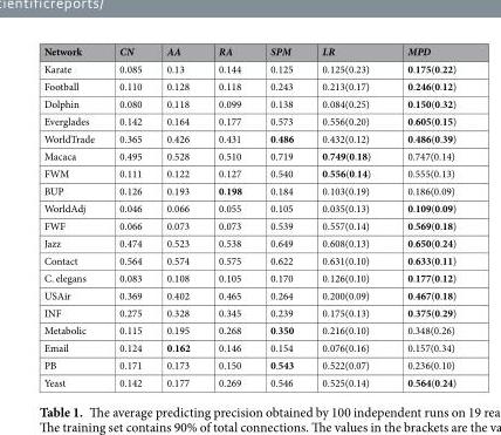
<table><thead><tr><td>Network</td><td>CN</td><td>AA</td><td>RA</td><td>SPM</td><td>LR</td><td>MPD</td></tr></thead><tbody><tr><td>Karate</td><td>0.085</td><td>0.13</td><td>0.144</td><td>0.125</td><td>0.125(0.23)</td><td>0.175(0.22)</td></tr><tr><td>Football</td><td>0.110</td><td>0.128</td><td>0.118</td><td>0.243</td><td>0.213(0.17)</td><td>0.246(0.12)</td></tr><tr><td>Dolphin</td><td>0.080</td><td>0.118</td><td>0.099</td><td>0.138</td><td>0.084(0.25)</td><td>0.150(0.32)</td></tr><tr><td>Everglades</td><td>0.142</td><td>0.164</td><td>0.177</td><td>0.573</td><td>0.556(0.20)</td><td>0.605(0.15)</td></tr><tr><td>WorldTrade</td><td>0.365</td><td>0.426</td><td>0.431</td><td>0.486</td><td>0.432(0.12)</td><td>0.486(0.39)</td></tr><tr><td>Macaca</td><td>0.495</td><td>0.528</td><td>0.510</td><td>0.719</td><td>0.749(0.18)</td><td>0.747(0.14)</td></tr><tr><td>FWM</td><td>0.111</td><td>0.122</td><td>0.127</td><td>0.540</td><td>0.556(0.14)</td><td>0.555(0.13)</td></tr><tr><td>BUP</td><td>0.126</td><td>0.193</td><td>0.198</td><td>0.184</td><td>0.103(0.19)</td><td>0.186(0.09)</td></tr><tr><td>WorldAdj</td><td>0.046</td><td>0.066</td><td>0.055</td><td>0.105</td><td>0.035(0.13)</td><td>0.109(0.09)</td></tr><tr><td>FWF</td><td>0.066</td><td>0.073</td><td>0.073</td><td>0.539</td><td>0.557(0.14)</td><td>0.569(0.18)</td></tr><tr><td>Jazz</td><td>0.474</td><td>0.523</td><td>0.538</td><td>0.649</td><td>0.608(0.13)</td><td>0.650(0.24)</td></tr><tr><td>Contact</td><td>0.564</td><td>0.574</td><td>0.575</td><td>0.622</td><td>0.631(0.10)</td><td>0.633(0.11)</td></tr><tr><td>C. elegans</td><td>0.083</td><td>0.108</td><td>0.105</td><td>0.170</td><td>0.126(0.10)</td><td>0.177(0.12)</td></tr><tr><td>USAir</td><td>0.369</td><td>0.402</td><td>0.465</td><td>0.264</td><td>0.200(0.09)</td><td>0.467(0.18)</td></tr><tr><td>INF</td><td>0.275</td><td>0.328</td><td>0.345</td><td>0.239</td><td>0.175(0.13)</td><td>0.375(0.29)</td></tr><tr><td>Metabolic</td><td>0.115</td><td>0.195</td><td>0.268</td><td>0.350</td><td>0.216(0.10)</td><td>0.348(0.26)</td></tr><tr><td>Email</td><td>0.124</td><td>0.162</td><td>0.146</td><td>0.154</td><td>0.076(0.16)</td><td>0.157(0.34)</td></tr><tr><td>PB</td><td>0.171</td><td>0.173</td><td>0.150</td><td>0.543</td><td>0.522(0.07)</td><td>0.236(0.10)</td></tr><tr><td>Yeast</td><td>0.142</td><td>0.177</td><td>0.269</td><td>0.546</td><td>0.525(0.14)</td><td>0.564(0.24)</td></tr></tbody></table>